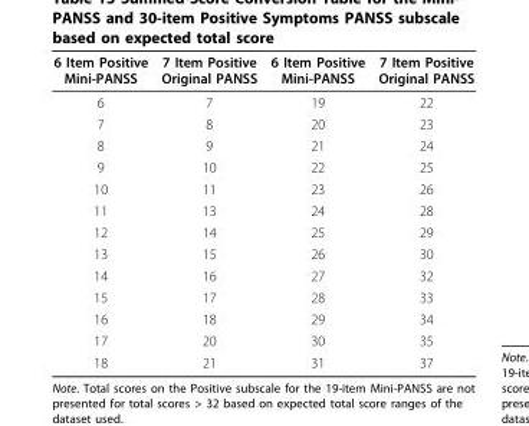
<table><thead><tr><td>6 Item Positive Mini-PANSS</td><td>7 Item Positive Original PANSS</td><td>6 Item Positive Mini-PANSS</td><td>7 Item Positive Original PANSS</td></tr></thead><tbody><tr><td>6</td><td>7</td><td>19</td><td>22</td></tr><tr><td>7</td><td>8</td><td>20</td><td>23</td></tr><tr><td>8</td><td>9</td><td>21</td><td>24</td></tr><tr><td>9</td><td>10</td><td>22</td><td>25</td></tr><tr><td>10</td><td>11</td><td>23</td><td>26</td></tr><tr><td>11</td><td>13</td><td>24</td><td>28</td></tr><tr><td>12</td><td>14</td><td>25</td><td>29</td></tr><tr><td>13</td><td>15</td><td>26</td><td>30</td></tr><tr><td>14</td><td>16</td><td>27</td><td>32</td></tr><tr><td>15</td><td>17</td><td>28</td><td>33</td></tr><tr><td>16</td><td>18</td><td>29</td><td>34</td></tr><tr><td>17</td><td>20</td><td>30</td><td>35</td></tr><tr><td>18</td><td>21</td><td>31</td><td>37</td></tr></tbody></table>